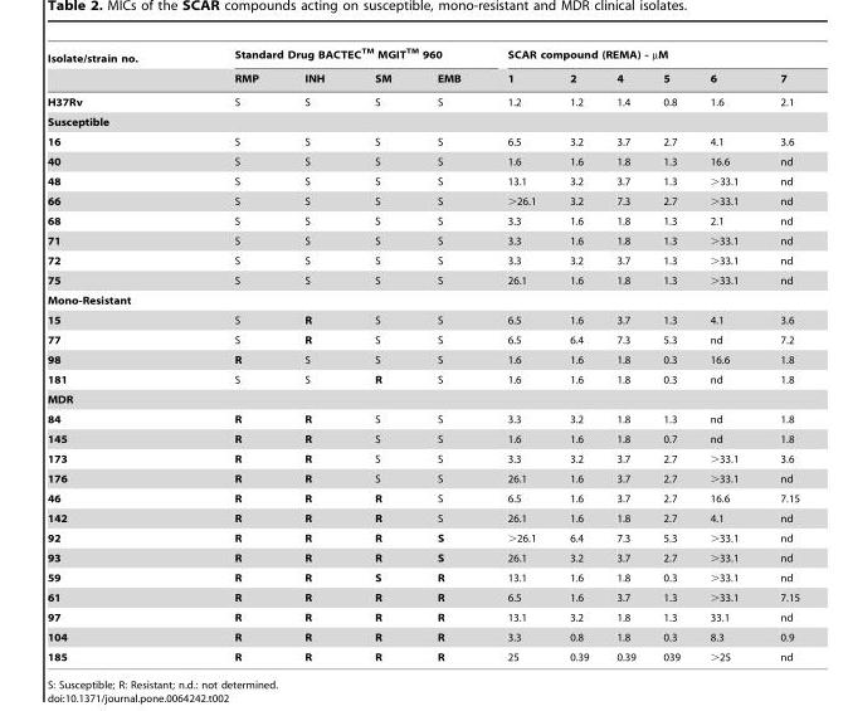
<table><thead><tr><td rowspan="2">Isolate/strain no.</td><td colspan="4">Standard Drug BACTECTM MGITTM 960</td><td colspan="6">SCAR compound (REMA) - µM</td></tr><tr><td>RMP</td><td>INH</td><td>SM</td><td>EMB</td><td>1</td><td>2</td><td>4</td><td>5</td><td>6</td><td>7</td></tr></thead><tbody><tr><td>H37Rv</td><td>S</td><td>S</td><td>S</td><td>S</td><td>1.2</td><td>1.2</td><td>1.4</td><td>0.8</td><td>1.6</td><td>2.1</td></tr><tr><td colspan="11">Susceptible</td></tr><tr><td>16</td><td>S</td><td>S</td><td>S</td><td>S</td><td>6.5</td><td>3.2</td><td>3.7</td><td>2.7</td><td>4.1</td><td>3.6</td></tr><tr><td>40</td><td>S</td><td>S</td><td>S</td><td>S</td><td>1.6</td><td>1.6</td><td>1.8</td><td>1.3</td><td>16.6</td><td>nd</td></tr><tr><td>48</td><td>S</td><td>S</td><td>S</td><td>S</td><td>13.1</td><td>3.2</td><td>3.7</td><td>1.3</td><td>&gt;33.1</td><td>nd</td></tr><tr><td>66</td><td>S</td><td>S</td><td>S</td><td>S</td><td>&gt;26.1</td><td>3.2</td><td>7.3</td><td>2.7</td><td>&gt;33.1</td><td>nd</td></tr><tr><td>68</td><td>S</td><td>S</td><td>S</td><td>S</td><td>3.3</td><td>1.6</td><td>1.8</td><td>1.3</td><td>2.1</td><td>nd</td></tr><tr><td>71</td><td>S</td><td>S</td><td>S</td><td>S</td><td>3.3</td><td>1.6</td><td>1.8</td><td>1.3</td><td>&gt;33.1</td><td>nd</td></tr><tr><td>72</td><td>S</td><td>S</td><td>S</td><td>S</td><td>3.3</td><td>3.2</td><td>3.7</td><td>1.3</td><td>&gt;33.1</td><td>nd</td></tr><tr><td>75</td><td>S</td><td>S</td><td>S</td><td>S</td><td>26.1</td><td>1.6</td><td>1.8</td><td>1.3</td><td>&gt;33.1</td><td>nd</td></tr><tr><td colspan="11">Mono-Resistant</td></tr><tr><td>15</td><td>S</td><td>R</td><td>S</td><td>S</td><td>6.5</td><td>1.6</td><td>3.7</td><td>1.3</td><td>4.1</td><td>3.6</td></tr><tr><td>77</td><td>S</td><td>R</td><td>S</td><td>S</td><td>6.5</td><td>6.4</td><td>7.3</td><td>5.3</td><td>nd</td><td>7.2</td></tr><tr><td>98</td><td>R</td><td>S</td><td>S</td><td>S</td><td>1.6</td><td>1.6</td><td>1.8</td><td>0.3</td><td>16.6</td><td>1.8</td></tr><tr><td>181</td><td>S</td><td>S</td><td>R</td><td>S</td><td>1.6</td><td>1.6</td><td>1.8</td><td>0.3</td><td>nd</td><td>1.8</td></tr><tr><td colspan="11">MDR</td></tr><tr><td>84</td><td>R</td><td>R</td><td>S</td><td>S</td><td>3.3</td><td>3.2</td><td>1.8</td><td>1.3</td><td>nd</td><td>1.8</td></tr><tr><td>145</td><td>R</td><td>R</td><td>S</td><td>S</td><td>1.6</td><td>1.6</td><td>1.8</td><td>0.7</td><td>nd</td><td>1.8</td></tr><tr><td>173</td><td>R</td><td>R</td><td>S</td><td>S</td><td>3.3</td><td>3.2</td><td>3.7</td><td>2.7</td><td>&gt;33.1</td><td>3.6</td></tr><tr><td>176</td><td>R</td><td>R</td><td>S</td><td>S</td><td>26.1</td><td>1.6</td><td>3.7</td><td>2.7</td><td>&gt;33.1</td><td>nd</td></tr><tr><td>46</td><td>R</td><td>R</td><td>R</td><td>S</td><td>6.5</td><td>1.6</td><td>3.7</td><td>2.7</td><td>16.6</td><td>7.15</td></tr><tr><td>142</td><td>R</td><td>R</td><td>R</td><td>S</td><td>26.1</td><td>1.6</td><td>1.8</td><td>2.7</td><td>4.1</td><td>nd</td></tr><tr><td>92</td><td>R</td><td>R</td><td>R</td><td>S</td><td>&gt;26.1</td><td>6.4</td><td>7.3</td><td>5.3</td><td>&gt;33.1</td><td>nd</td></tr><tr><td>93</td><td>R</td><td>R</td><td>R</td><td>S</td><td>26.1</td><td>3.2</td><td>3.7</td><td>2.7</td><td>&gt;33.1</td><td>nd</td></tr><tr><td>59</td><td>R</td><td>R</td><td>S</td><td>R</td><td>13.1</td><td>1.6</td><td>1.8</td><td>0.3</td><td>&gt;33.1</td><td>nd</td></tr><tr><td>61</td><td>R</td><td>R</td><td>R</td><td>R</td><td>6.5</td><td>1.6</td><td>3.7</td><td>1.3</td><td>&gt;33.1</td><td>7.15</td></tr><tr><td>97</td><td>R</td><td>R</td><td>R</td><td>R</td><td>13.1</td><td>3.2</td><td>1.8</td><td>1.3</td><td>33.1</td><td>nd</td></tr><tr><td>104</td><td>R</td><td>R</td><td>R</td><td>R</td><td>3.3</td><td>0.8</td><td>1.8</td><td>0.3</td><td>8.3</td><td>0.9</td></tr><tr><td>185</td><td>R</td><td>R</td><td>R</td><td>R</td><td>25</td><td>0.39</td><td>0.39</td><td>039</td><td>&gt;25</td><td>nd</td></tr></tbody></table>